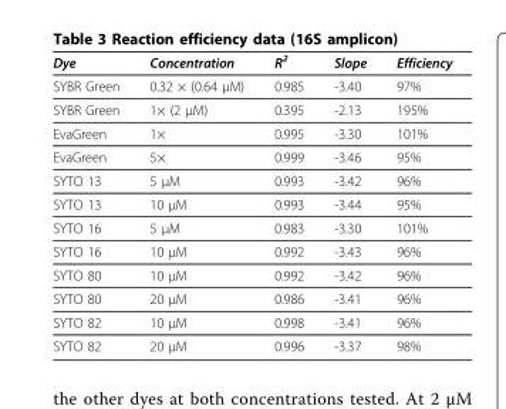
<table><thead><tr><td>Dye</td><td>Concentration</td><td>R<sup>2</sup></td><td>Slope</td><td>Efficiency</td></tr></thead><tbody><tr><td>SYBR Green</td><td>0.32 × (0.64 μM)</td><td>0.985</td><td>-3.40</td><td>97%</td></tr><tr><td>SYBR Green</td><td>1× (2 μM)</td><td>0.395</td><td>-2.13</td><td>195%</td></tr><tr><td>EvaGreen</td><td>1×</td><td>0.995</td><td>-3.30</td><td>101%</td></tr><tr><td>EvaGreen</td><td>5×</td><td>0.999</td><td>-3.46</td><td>95%</td></tr><tr><td>SYTO 13</td><td>5 μM</td><td>0.993</td><td>-3.42</td><td>96%</td></tr><tr><td>SYTO 13</td><td>10 μM</td><td>0.993</td><td>-3.44</td><td>95%</td></tr><tr><td>SYTO 16</td><td>5 μM</td><td>0.983</td><td>-3.30</td><td>101%</td></tr><tr><td>SYTO 16</td><td>10 μM</td><td>0.992</td><td>-3.43</td><td>96%</td></tr><tr><td>SYTO 80</td><td>10 μM</td><td>0.992</td><td>-3.42</td><td>96%</td></tr><tr><td>SYTO 80</td><td>20 μM</td><td>0.986</td><td>-3.41</td><td>96%</td></tr><tr><td>SYTO 82</td><td>10 μM</td><td>0.998</td><td>-3.41</td><td>96%</td></tr><tr><td>SYTO 82</td><td>20 μM</td><td>0.996</td><td>-3.37</td><td>98%</td></tr></tbody></table>